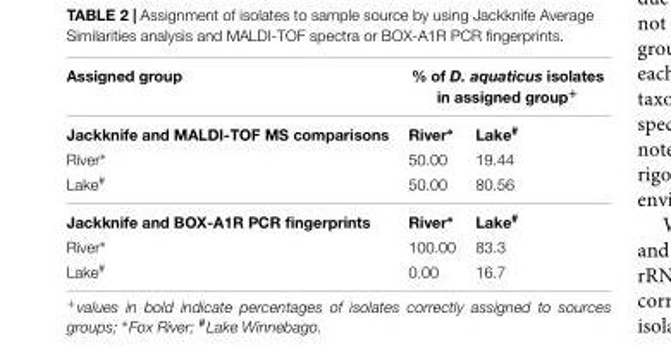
<table><thead><tr><td rowspan="2">Assigned group Jackknife and MALDI-TOF MS comparisons</td><td colspan="2">% of D. aquaticus isolates in assigned group<sup>+</sup></td></tr><tr><td>River∗</td><td>Lake<sup>#</sup></td></tr></thead><tbody><tr><td>River∗</td><td>50.00</td><td>19.44</td></tr><tr><td>Lake<sup>#</sup></td><td>50.00</td><td>80.56</td></tr><tr><td>Jackknife and BOX-A1R PCR fingerprints</td><td>River∗</td><td>Lake<sup>#</sup></td></tr><tr><td>River∗</td><td>100.00</td><td>83.3</td></tr><tr><td>Lake<sup>#</sup></td><td>0.00</td><td>16.7</td></tr></tbody></table>